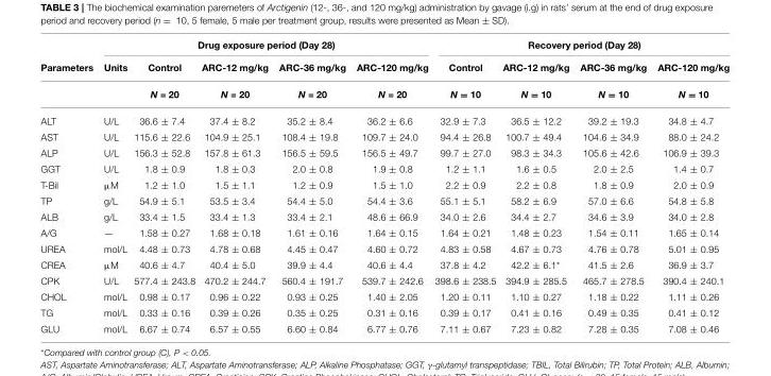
<table><thead><tr><td rowspan="3">Parameters</td><td colspan="5">Drug exposure period (Day 28)</td><td colspan="4">Recovery period (Day 28)</td></tr><tr><td rowspan="2">Units</td><td rowspan="2">Control N = 20</td><td rowspan="2">ARC-12 mg/kg N = 20</td><td rowspan="2">ARC-36 mg/kg N = 20</td><td rowspan="2">ARC-120 mg/kg N = 20</td><td rowspan="2">Control N = 10</td><td rowspan="2">ARC-12 mg/kg N = 10</td><td rowspan="2">ARC-36 mg/kg N = 10</td><td rowspan="2">ARC-120 mg/kg N = 10</td></tr><tr></tr></thead><tbody><tr><td>ALT</td><td>U/L</td><td>36.6 ± 7.4</td><td>37.4 ± 8.2</td><td>35.2 ± 8.4</td><td>36.2 ± 6.6</td><td>32.9 ± 7.3</td><td>36.5 ± 12.2</td><td>39.2 ± 19.3</td><td>34.8 ± 4.7</td></tr><tr><td>AST</td><td>U/L</td><td>115.6 ± 22.6</td><td>104.9 ± 25.1</td><td>108.4 ± 19.8</td><td>109.7 ± 24.0</td><td>94.4 ± 26.8</td><td>100.7 ± 49.4</td><td>104.6 ± 34.9</td><td>88.0 ± 24.2</td></tr><tr><td>ALP</td><td>U/L</td><td>156.3 ± 52.8</td><td>157.8 ± 61.3</td><td>156.5 ± 59.5</td><td>156.5 ± 49.7</td><td>99.7 ± 27.0</td><td>98.3 ± 34.3</td><td>105.6 ± 42.6</td><td>106.9 ± 39.3</td></tr><tr><td>GGT</td><td>U/L</td><td>1.8 ± 0.9</td><td>1.8 ± 0.3</td><td>2.0 ± 0.8</td><td>1.9 ± 0.8</td><td>1.2 ± 1.1</td><td>1.6 ± 0.5</td><td>2.0 ± 2.5</td><td>1.4 ± 0.7</td></tr><tr><td>T-Bil</td><td>µM</td><td>1.2 ± 1.0</td><td>1.5 ± 1.1</td><td>1.2 ± 0.9</td><td>1.5 ± 1.0</td><td>2.2 ± 0.9</td><td>2.2 ± 0.8</td><td>1.8 ± 0.9</td><td>2.0 ± 0.9</td></tr><tr><td>TP</td><td>g/L</td><td>54.9 ± 5.1</td><td>53.5 ± 3.4</td><td>54.4 ± 5.0</td><td>54.4 ± 3.6</td><td>55.1 ± 5.1</td><td>58.2 ± 6.9</td><td>57.0 ± 6.6</td><td>54.8 ± 5.8</td></tr><tr><td>ALB</td><td>g/L</td><td>33.4 ± 1.5</td><td>33.4 ± 1.3</td><td>33.4 ± 2.1</td><td>48.6 ± 66.9</td><td>34.0 ± 2.6</td><td>34.4 ± 2.7</td><td>34.6 ± 3.9</td><td>34.0 ± 2.8</td></tr><tr><td>A/G</td><td>—</td><td>1.58 ± 0.27</td><td>1.68 ± 0.18</td><td>1.61 ± 0.16</td><td>1.64 ± 0.15</td><td>1.64 ± 0.21</td><td>1.48 ± 0.23</td><td>1.54 ± 0.11</td><td>1.65 ± 0.14</td></tr><tr><td>UREA</td><td>mol/L</td><td>4.48 ± 0.73</td><td>4.78 ± 0.68</td><td>4.45 ± 0.47</td><td>4.60 ± 0.72</td><td>4.83 ± 0.58</td><td>4.67 ± 0.73</td><td>4.76 ± 0.78</td><td>5.01 ± 0.95</td></tr><tr><td>CREA</td><td>µM</td><td>40.6 ± 4.7</td><td>40.4 ± 5.0</td><td>39.9 ± 4.4</td><td>40.6 ± 4.4</td><td>37.8 ± 4.2</td><td>42.2 ± 6.1*</td><td>41.5 ± 2.6</td><td>36.9 ± 3.7</td></tr><tr><td>CPK</td><td>U/L</td><td>577.4 ± 243.8</td><td>470.2 ± 244.7</td><td>560.4 ± 191.7</td><td>539.7 ± 242.6</td><td>398.6 ± 238.5</td><td>394.9 ± 285.5</td><td>465.7 ± 278.5</td><td>390.4 ± 240.1</td></tr><tr><td>CHOL</td><td>mol/L</td><td>0.98 ± 0.17</td><td>0.96 ± 0.22</td><td>0.93 ± 0.25</td><td>1.40 ± 2.05</td><td>1.20 ± 0.11</td><td>1.10 ± 0.27</td><td>1.18 ± 0.22</td><td>1.11 ± 0.26</td></tr><tr><td>TG</td><td>mol/L</td><td>0.33 ± 0.16</td><td>0.39 ± 0.26</td><td>0.35 ± 0.25</td><td>0.31 ± 0.16</td><td>0.39 ± 0.17</td><td>0.41 ± 0.16</td><td>0.49 ± 0.35</td><td>0.41 ± 0.12</td></tr><tr><td>GLU</td><td>mol/L</td><td>6.67 ± 0.74</td><td>6.57 ± 0.55</td><td>6.60 ± 0.84</td><td>6.77 ± 0.76</td><td>7.11 ± 0.67</td><td>7.23 ± 0.82</td><td>7.28 ± 0.35</td><td>7.08 ± 0.46</td></tr></tbody></table>